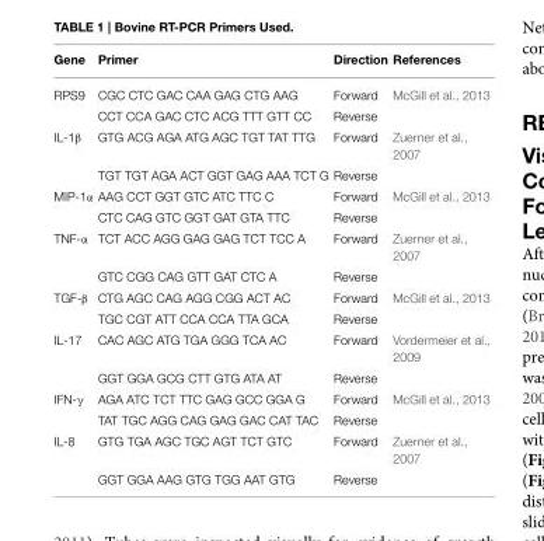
<table><thead><tr><td>Gene</td><td>Primer</td><td>Direction</td><td>References</td></tr></thead><tbody><tr><td rowspan="2">RPS9</td><td>CGC CTC GAC CAA GAG CTG AAG</td><td>Forward</td><td>McGill et al., 2013</td></tr><tr><td>CCT CCA GAC CTC ACG TTT GTT CC</td><td>Reverse</td><td></td></tr><tr><td rowspan="2">IL-1β</td><td>GTG ACG AGA ATG AGC TGT TAT TTG</td><td>Forward</td><td>Zuerner et al., 2007</td></tr><tr><td>TGT TGT AGA ACT GGT GAG AAA TCT G</td><td>Reverse</td><td></td></tr><tr><td rowspan="2">MIP-1α</td><td>AAG CCT GGT GTC ATC TTC C</td><td>Forward</td><td>McGill et al., 2013</td></tr><tr><td>CTC CAG GTC GGT GAT GTA TTC</td><td>Reverse</td><td></td></tr><tr><td rowspan="2">TNF-α</td><td>TCT ACC AGG GAG GAG TCT TCC A</td><td>Forward</td><td>Zuerner et al., 2007</td></tr><tr><td>GTC CGG CAG GTT GAT CTC A</td><td>Reverse</td><td></td></tr><tr><td rowspan="2">TGF-β</td><td>CTG AGC CAG AGG CGG ACT AC</td><td>Forward</td><td>McGill et al., 2013</td></tr><tr><td>TGC CGT ATT CCA CCA TTA GCA</td><td>Reverse</td><td></td></tr><tr><td rowspan="2">IL-17</td><td>CAC AGC ATG TGA GGG TCA AC</td><td>Forward</td><td>Vordermeier et al., 2009</td></tr><tr><td>GGT GGA GCG CTT GTG ATA AT</td><td>Reverse</td><td></td></tr><tr><td rowspan="2">IFN-γ</td><td>AGA ATC TCT TTC GAG GCC GGA G</td><td>Forward</td><td>McGill et al., 2013</td></tr><tr><td>TAT TGC AGG CAG GAG GAC CAT TAC</td><td>Reverse</td><td></td></tr><tr><td rowspan="2">IL-8</td><td>GTG TGA AGC TGC AGT TCT GTC</td><td>Forward</td><td>Zuerner et al., 2007</td></tr><tr><td>GGT GGA AAG GTG TGG AAT GTG</td><td>Reverse</td><td></td></tr></tbody></table>